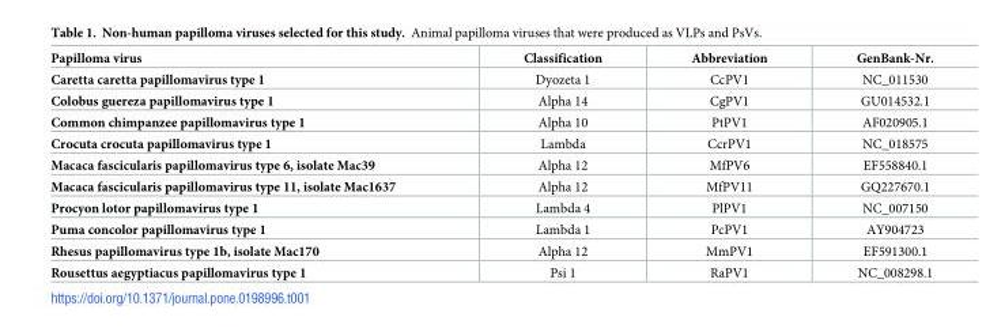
<table><thead><tr><td>Papilloma virus</td><td>Classification</td><td>Abbreviation</td><td>GenBank-Nr.</td></tr></thead><tbody><tr><td>Caretta caretta papillomavirus type 1</td><td>Dyozeta 1</td><td>CcPV1</td><td>NC_011530</td></tr><tr><td>Colobus guereza papillomavirus type 1</td><td>Alpha 14</td><td>CgPV1</td><td>GU014532.1</td></tr><tr><td>Common chimpanzee papillomavirus type 1</td><td>Alpha 10</td><td>PtPV1</td><td>AF020905.1</td></tr><tr><td>Crocuta crocuta papillomavirus type 1</td><td>Lambda</td><td>CcrPV1</td><td>NC_018575</td></tr><tr><td>Macaca fascicularis papillomavirus type 6, isolate Mac39</td><td>Alpha 12</td><td>MfPV6</td><td>EF558840.1</td></tr><tr><td>Macaca fascicularis papillomavirus type 11, isolate Mac1637</td><td>Alpha 12</td><td>MfPV11</td><td>GQ227670.1</td></tr><tr><td>Procyon lotor papillomavirus type 1</td><td>Lambda 4</td><td>PlPV1</td><td>NC_007150</td></tr><tr><td>Puma concolor papillomavirus type 1</td><td>Lambda 1</td><td>PcPV1</td><td>AY904723</td></tr><tr><td>Rhesus papillomavirus type 1b, isolate Mac170</td><td>Alpha 12</td><td>MmPV1</td><td>EF591300.1</td></tr><tr><td>Rousettus aegyptiacus papillomavirus type 1</td><td>Psi 1</td><td>RaPV1</td><td>NC_008298.1</td></tr></tbody></table>